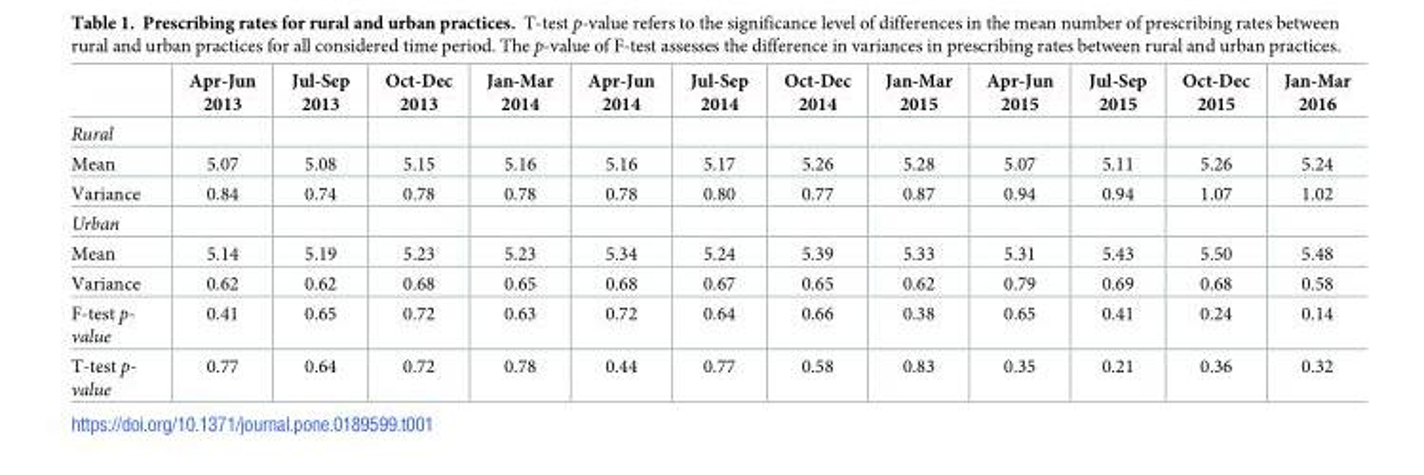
<table><thead><tr><td></td><td>Apr-Jun 2013</td><td>Jul-Sep 2013</td><td>Oct-Dec 2013</td><td>Jan-Mar 2014</td><td>Apr-Jun 2014</td><td>Jul-Sep 2014</td><td>Oct-Dec 2014</td><td>Jan-Mar 2015</td><td>Apr-Jun 2015</td><td>Jul-Sep 2015</td><td>Oct-Dec 2015</td><td>Jan-Mar 2016</td></tr></thead><tbody><tr><td colspan="13">Rural</td></tr><tr><td>Mean</td><td>5.07</td><td>5.08</td><td>5.15</td><td>5.16</td><td>5.16</td><td>5.17</td><td>5.26</td><td>5.28</td><td>5.07</td><td>5.11</td><td>5.26</td><td>5.24</td></tr><tr><td>Variance</td><td>0.84</td><td>0.74</td><td>0.78</td><td>0.78</td><td>0.78</td><td>0.80</td><td>0.77</td><td>0.87</td><td>0.94</td><td>0.94</td><td>1.07</td><td>1.02</td></tr><tr><td colspan="13">Urban</td></tr><tr><td>Mean</td><td>5.14</td><td>5.19</td><td>5.23</td><td>5.23</td><td>5.34</td><td>5.24</td><td>5.39</td><td>5.33</td><td>5.31</td><td>5.43</td><td>5.50</td><td>5.48</td></tr><tr><td>Variance</td><td>0.62</td><td>0.62</td><td>0.68</td><td>0.65</td><td>0.68</td><td>0.67</td><td>0.65</td><td>0.62</td><td>0.79</td><td>0.69</td><td>0.68</td><td>0.58</td></tr><tr><td>F-test p- value</td><td>0.41</td><td>0.65</td><td>0.72</td><td>0.63</td><td>0.72</td><td>0.64</td><td>0.66</td><td>0.38</td><td>0.65</td><td>0.41</td><td>0.24</td><td>0.14</td></tr><tr><td>T-test p- value</td><td>0.77</td><td>0.64</td><td>0.72</td><td>0.78</td><td>0.44</td><td>0.77</td><td>0.58</td><td>0.83</td><td>0.35</td><td>0.21</td><td>0.36</td><td>0.32</td></tr></tbody></table>